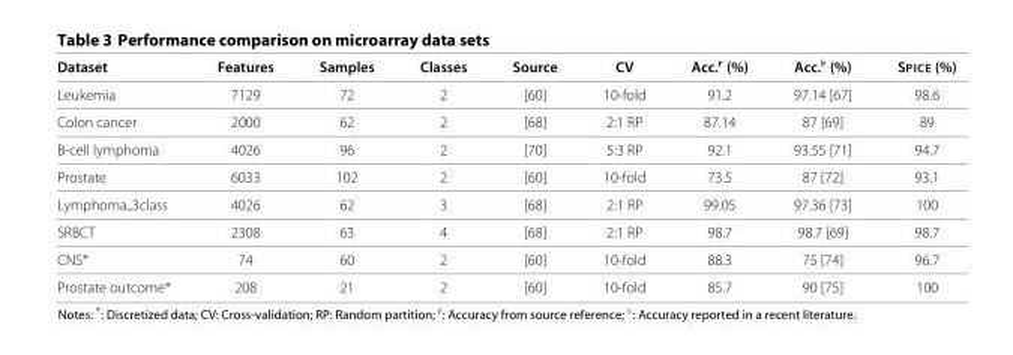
<table><thead><tr><td>Dataset</td><td>Features</td><td>Samples</td><td>Classes</td><td>Source</td><td>CV</td><td>Acc.<sup>r</sup> (%)</td><td>Acc.<sup>♭</sup> (%)</td><td>SPICE (%)</td></tr></thead><tbody><tr><td>Leukemia</td><td>7129</td><td>72</td><td>2</td><td>[60]</td><td>10-fold</td><td>91.2</td><td>97.14 [67]</td><td>98.6</td></tr><tr><td>Colon cancer</td><td>2000</td><td>62</td><td>2</td><td>[68]</td><td>2:1 RP</td><td>87.14</td><td>87 [69]</td><td>89</td></tr><tr><td>B-cell lymphoma</td><td>4026</td><td>96</td><td>2</td><td>[70]</td><td>5:3 RP</td><td>92.1</td><td>93.55 [71]</td><td>94.7</td></tr><tr><td>Prostate</td><td>6033</td><td>102</td><td>2</td><td>[60]</td><td>10-fold</td><td>73.5</td><td>87 [72]</td><td>93.1</td></tr><tr><td>Lymphoma 3class</td><td>4026</td><td>62</td><td>3</td><td>[68]</td><td>2:1 RP</td><td>99.05</td><td>97.36 [73]</td><td>100</td></tr><tr><td>SRBCT</td><td>2308</td><td>63</td><td>4</td><td>[68]</td><td>2:1 RP</td><td>98.7</td><td>98.7 [69]</td><td>98.7</td></tr><tr><td>CNS∗</td><td>74</td><td>60</td><td>2</td><td>[60]</td><td>10-fold</td><td>88.3</td><td>75 [74]</td><td>96.7</td></tr><tr><td>Prostate outcome∗</td><td>208</td><td>21</td><td>2</td><td>[60]</td><td>10-fold</td><td>85.7</td><td>90 [75]</td><td>100</td></tr></tbody></table>